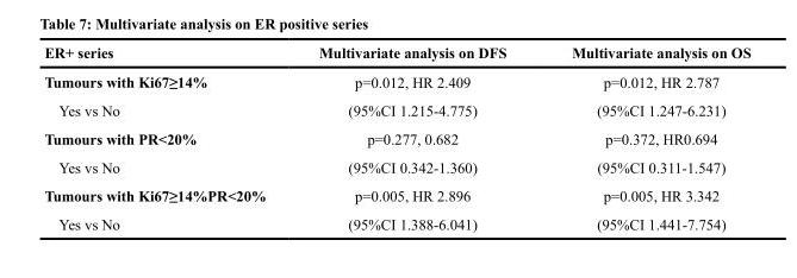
<table><thead><tr><td>ER+ series</td><td>Multivariate analysis on DFS</td><td>Multivariate analysis on OS</td></tr></thead><tbody><tr><td>Tumours with Ki67≥14%</td><td>p=0.012, HR 2.409</td><td>p=0.012, HR 2.787</td></tr><tr><td>Yes vs No</td><td>(95%CI 1.215-4.775)</td><td>(95%CI 1.247-6.231)</td></tr><tr><td>Tumours with PR&lt;20%</td><td>p=0.277, 0.682</td><td>p=0.372, HR0.694</td></tr><tr><td>Yes vs No</td><td>(95%CI 0.342-1.360)</td><td>(95%CI 0.311-1.547)</td></tr><tr><td>Tumours with Ki67≥14%PR&lt;20%</td><td>p=0.005, HR 2.896</td><td>p=0.005, HR 3.342</td></tr><tr><td>Yes vs No</td><td>(95%CI 1.388-6.041)</td><td>(95%CI 1.441-7.754)</td></tr></tbody></table>